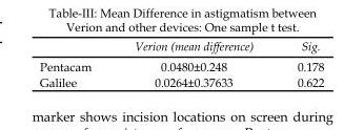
<table><thead><tr><td></td><td>Verion (mean difference)</td><td>Sig.</td></tr></thead><tbody><tr><td>Pentacam</td><td>0.0480±0.248</td><td>0.178</td></tr><tr><td>Galilee</td><td>0.0264±0.37633</td><td>0.622</td></tr></tbody></table>